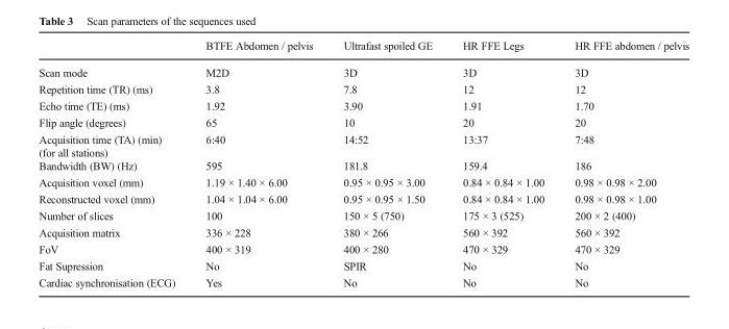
<table><thead><tr><td></td><td>BTFE Abdomen / pelvis</td><td>Ultrafast spoiled GE</td><td>HR FFE Legs</td><td>HR FFE abdomen / pelvis</td></tr></thead><tbody><tr><td>Scan mode</td><td>M2D</td><td>3D</td><td>3D</td><td>3D</td></tr><tr><td>Repetition time (TR) (ms)</td><td>3.8</td><td>7.8</td><td>12</td><td>12</td></tr><tr><td>Echo time (TE) (ms)</td><td>1.92</td><td>3.90</td><td>1.91</td><td>1.70</td></tr><tr><td>Flip angle (degrees)</td><td>65</td><td>10</td><td>20</td><td>20</td></tr><tr><td>Acquisition time (TA) (min) (for all stations)</td><td>6:40</td><td>14:52</td><td>13:37</td><td>7:48</td></tr><tr><td>Bandwidth (BW) (Hz)</td><td>595</td><td>181.8</td><td>159.4</td><td>186</td></tr><tr><td>Acquisition voxel (mm)</td><td>1.19 × 1.40 × 6.00</td><td>0.95 × 0.95 × 3.00</td><td>0.84 × 0.84 × 1.00</td><td>0.98 × 0.98 × 2.00</td></tr><tr><td>Reconstructed voxel (mm)</td><td>1.04 × 1.04 × 6.00</td><td>0.95 × 0.95 × 1.50</td><td>0.84 × 0.84 × 1.00</td><td>0.98 × 0.98 × 1.00</td></tr><tr><td>Number of slices</td><td>100</td><td>150 × 5 (750)</td><td>175 × 3 (525)</td><td>200 × 2 (400)</td></tr><tr><td>Acquisition matrix</td><td>336 × 228</td><td>380 × 266</td><td>560 × 392</td><td>560 × 392</td></tr><tr><td>FoV</td><td>400 × 319</td><td>400 × 280</td><td>470 × 329</td><td>470 × 329</td></tr><tr><td>Fat Supression</td><td>No</td><td>SPIR</td><td>No</td><td>No</td></tr><tr><td>Cardiac synchronisation (ECG)</td><td>Yes</td><td>No</td><td>No</td><td>No</td></tr></tbody></table>